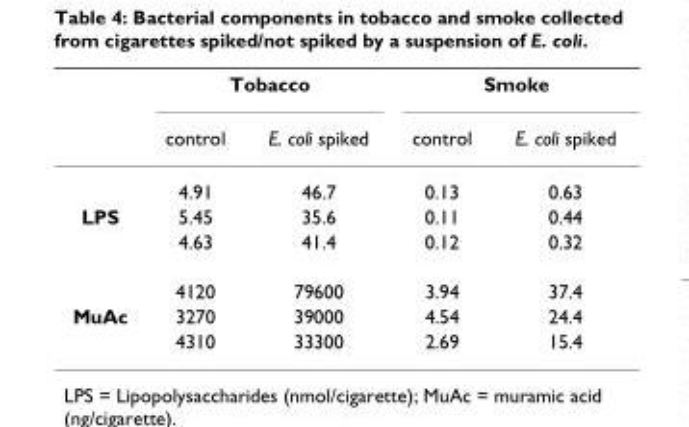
<table><thead><tr><td rowspan="2"></td><td colspan="2">Tobacco</td><td colspan="2">Smoke</td></tr><tr><td>control</td><td>E. coli spiked</td><td>control</td><td>E. coli spiked</td></tr></thead><tbody><tr><td></td><td>4.91</td><td>46.7</td><td>0.13</td><td>0.63</td></tr><tr><td rowspan="3">LPS</td><td>5.45</td><td>35.6</td><td>0.11</td><td>0.44</td></tr><tr><td>4.63</td><td>41.4</td><td>0.12</td><td>0.32</td></tr><tr><td>4120</td><td>79600</td><td>3.94</td><td>37.4</td></tr><tr><td rowspan="2">MuAc</td><td>3270</td><td>39000</td><td>4.54</td><td>24.4</td></tr><tr><td>4310</td><td>33300</td><td>2.69</td><td>15.4</td></tr></tbody></table>